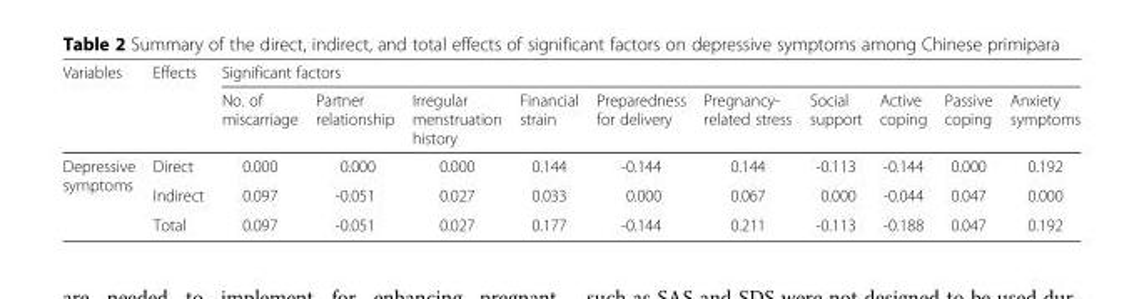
<table><thead><tr><td rowspan="2">Variables</td><td rowspan="2">Effects</td><td colspan="10">Significant factors</td></tr><tr><td>No. of miscarriage</td><td>Partner relationship</td><td>Irregular menstruation history</td><td>Financial strain</td><td>Preparedness for delivery</td><td>Pregnancy- related stress</td><td>Social support</td><td>Active coping</td><td>Passive coping</td><td>Anxiety symptoms</td></tr></thead><tbody><tr><td rowspan="3">Depressive symptoms</td><td>Direct</td><td>0.000</td><td>0.000</td><td>0.000</td><td>0.144</td><td>-0.144</td><td>0.144</td><td>-0.113</td><td>-0.144</td><td>0.000</td><td>0.192</td></tr><tr><td>Indirect</td><td>0.097</td><td>-0.051</td><td>0.027</td><td>0.033</td><td>0.000</td><td>0.067</td><td>0.000</td><td>-0.044</td><td>0.047</td><td>0.000</td></tr><tr><td>Total</td><td>0.097</td><td>-0.051</td><td>0.027</td><td>0.177</td><td>-0.144</td><td>0.211</td><td>-0.113</td><td>-0.188</td><td>0.047</td><td>0.192</td></tr></tbody></table>